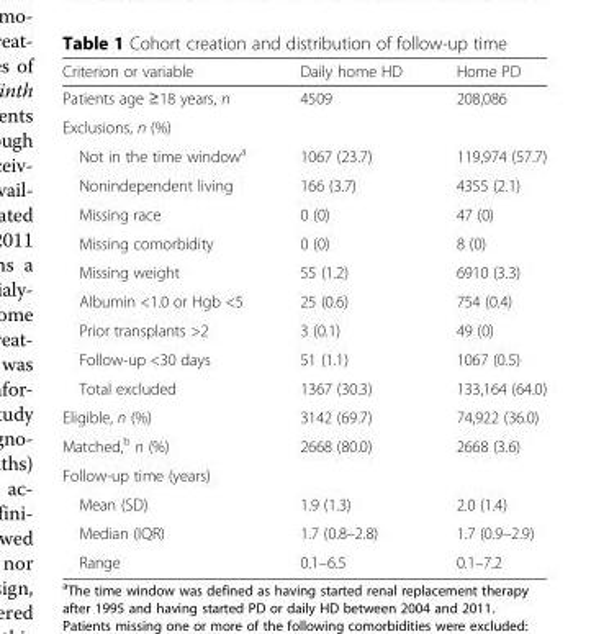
<table><thead><tr><td>Criterion or variable</td><td>Daily home HD</td><td>Home PD</td></tr></thead><tbody><tr><td>Patients age ≥18 years, n</td><td>4509</td><td>208,086</td></tr><tr><td colspan="3">Exclusions, n (%)</td></tr><tr><td>Not in the time window<sup>a</sup></td><td>1067 (23.7)</td><td>119,974 (57.7)</td></tr><tr><td>Nonindependent living</td><td>166 (3.7)</td><td>4355 (2.1)</td></tr><tr><td>Missing race</td><td>0 (0)</td><td>47 (0)</td></tr><tr><td>Missing comorbidity</td><td>0 (0)</td><td>8 (0)</td></tr><tr><td>Missing weight</td><td>55 (1.2)</td><td>6910 (3.3)</td></tr><tr><td>Albumin &lt;1.0 or Hgb &lt;5</td><td>25 (0.6)</td><td>754 (0.4)</td></tr><tr><td>Prior transplants &gt;2</td><td>3 (0.1)</td><td>49 (0)</td></tr><tr><td>Follow-up &lt;30 days</td><td>51 (1.1)</td><td>1067 (0.5)</td></tr><tr><td>Total excluded</td><td>1367 (30.3)</td><td>133,164 (64.0)</td></tr><tr><td>Eligible, n (%)</td><td>3142 (69.7)</td><td>74,922 (36.0)</td></tr><tr><td>Matched,<sup>b</sup> n (%)</td><td>2668 (80.0)</td><td>2668 (3.6)</td></tr><tr><td colspan="3">Follow-up time (years)</td></tr><tr><td>Mean (SD)</td><td>1.9 (1.3)</td><td>2.0 (1.4)</td></tr><tr><td>Median (IQR)</td><td>1.7 (0.8–2.8)</td><td>1.7 (0.9–2.9)</td></tr><tr><td>Range</td><td>0.1–6.5</td><td>0.1–7.2</td></tr></tbody></table>